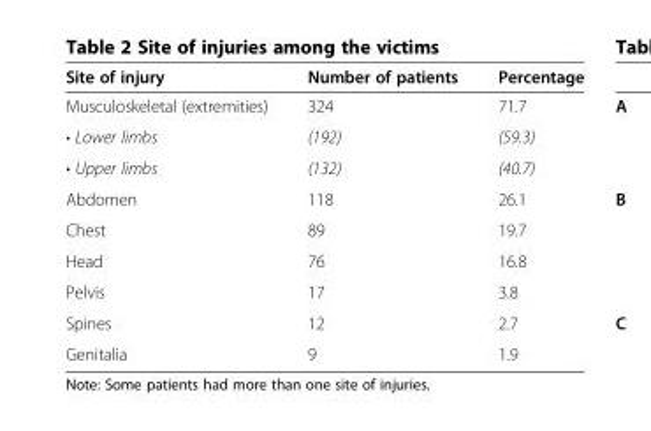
<table><thead><tr><td>Site of injury</td><td>Number of patients</td><td>Percentage</td></tr></thead><tbody><tr><td>Musculoskeletal (extremities)</td><td>324</td><td>71.7</td></tr><tr><td>• Lower limbs</td><td>(192)</td><td>(59.3)</td></tr><tr><td>• Upper limbs</td><td>(132)</td><td>(40.7)</td></tr><tr><td>Abdomen</td><td>118</td><td>26.1</td></tr><tr><td>Chest</td><td>89</td><td>19.7</td></tr><tr><td>Head</td><td>76</td><td>16.8</td></tr><tr><td>Pelvis</td><td>17</td><td>3.8</td></tr><tr><td>Spines</td><td>12</td><td>2.7</td></tr><tr><td>Genitalia</td><td>9</td><td>1.9</td></tr></tbody></table>